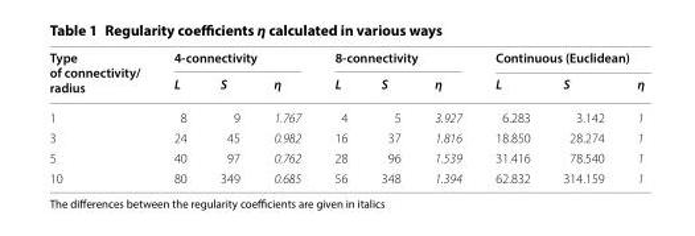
<table><thead><tr><td rowspan="2">Type of connectivity/ radius</td><td colspan="3">4-connectivity</td><td colspan="3">8-connectivity</td><td colspan="3">Continuous (Euclidean)</td></tr><tr><td>L</td><td>S</td><td>η</td><td>L</td><td>S</td><td>η</td><td>L</td><td>S</td><td>η</td></tr></thead><tbody><tr><td>1</td><td>8</td><td>9</td><td>1.767</td><td>4</td><td>5</td><td>3.927</td><td>6.283</td><td>3.142</td><td>1</td></tr><tr><td>3</td><td>24</td><td>45</td><td>0.982</td><td>16</td><td>37</td><td>1.816</td><td>18.850</td><td>28.274</td><td>1</td></tr><tr><td>5</td><td>40</td><td>97</td><td>0.762</td><td>28</td><td>96</td><td>1.539</td><td>31.416</td><td>78.540</td><td>1</td></tr><tr><td>10</td><td>80</td><td>349</td><td>0.685</td><td>56</td><td>348</td><td>1.394</td><td>62.832</td><td>314.159</td><td>1</td></tr></tbody></table>